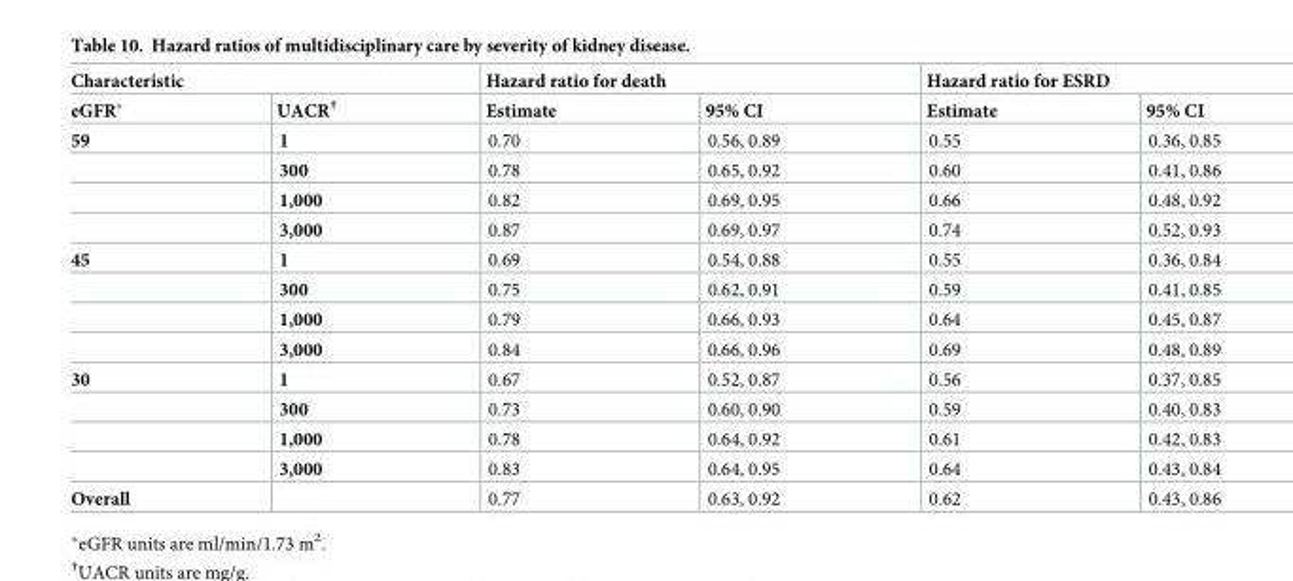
<table><thead><tr><td colspan="2">Characteristic</td><td colspan="2">Hazard ratio for death</td><td colspan="2">Hazard ratio for ESRD</td></tr><tr><td>eGFR*</td><td>UACR<sup>†</sup></td><td>Estimate</td><td>95% CI</td><td>Estimate</td><td>95% CI</td></tr></thead><tbody><tr><td rowspan="4">59</td><td>1</td><td>0.70</td><td>0.56, 0.89</td><td>0.55</td><td>0.36, 0.85</td></tr><tr><td>300</td><td>0.78</td><td>0.65, 0.92</td><td>0.60</td><td>0.41, 0.86</td></tr><tr><td>1,000</td><td>0.82</td><td>0.69, 0.95</td><td>0.66</td><td>0.48, 0.92</td></tr><tr><td>3,000</td><td>0.87</td><td>0.69, 0.97</td><td>0.74</td><td>0.52, 0.93</td></tr><tr><td rowspan="4">45</td><td>1</td><td>0.69</td><td>0.54, 0.88</td><td>0.55</td><td>0.36, 0.84</td></tr><tr><td>300</td><td>0.75</td><td>0.62, 0.91</td><td>0.59</td><td>0.41, 0.85</td></tr><tr><td>1,000</td><td>0.79</td><td>0.66, 0.93</td><td>0.64</td><td>0.45, 0.87</td></tr><tr><td>3,000</td><td>0.84</td><td>0.66, 0.96</td><td>0.69</td><td>0.48, 0.89</td></tr><tr><td rowspan="4">30</td><td>1</td><td>0.67</td><td>0.52, 0.87</td><td>0.56</td><td>0.37, 0.85</td></tr><tr><td>300</td><td>0.73</td><td>0.60, 0.90</td><td>0.59</td><td>0.40, 0.83</td></tr><tr><td>1,000</td><td>0.78</td><td>0.64, 0.92</td><td>0.61</td><td>0.42, 0.83</td></tr><tr><td>3,000</td><td>0.83</td><td>0.64, 0.95</td><td>0.64</td><td>0.43, 0.84</td></tr><tr><td>Overall</td><td></td><td>0.77</td><td>0.63, 0.92</td><td>0.62</td><td>0.43, 0.86</td></tr></tbody></table>